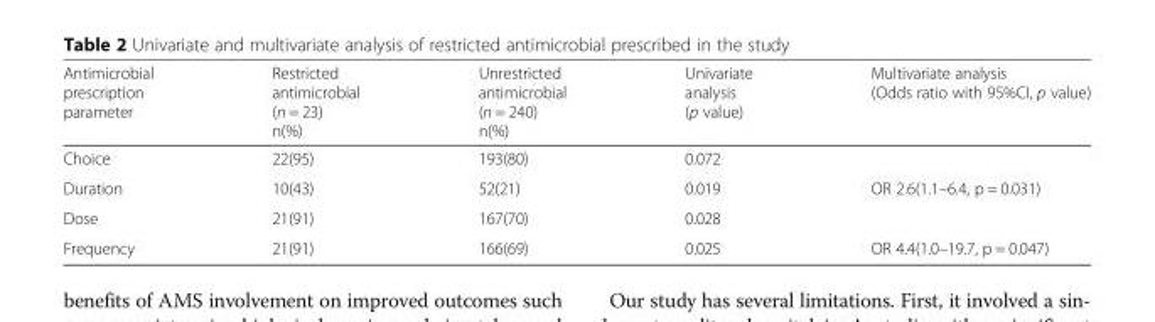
<table><thead><tr><td>Antimicrobial prescription parameter</td><td>Restricted antimicrobial (n = 23) n(%)</td><td>Unrestricted antimicrobial (n = 240) n(%)</td><td>Univariate analysis (p value)</td><td>Multivariate analysis (Odds ratio with 95%CI, p value)</td></tr></thead><tbody><tr><td>Choice</td><td>22(95)</td><td>193(80)</td><td>0.072</td><td></td></tr><tr><td>Duration</td><td>10(43)</td><td>52(21)</td><td>0.019</td><td>OR 2.6(1.1–6.4, p = 0.031)</td></tr><tr><td>Dose</td><td>21(91)</td><td>167(70)</td><td>0.028</td><td></td></tr><tr><td>Frequency</td><td>21(91)</td><td>166(69)</td><td>0.025</td><td>OR 4.4(1.0–19.7, p = 0.047)</td></tr></tbody></table>